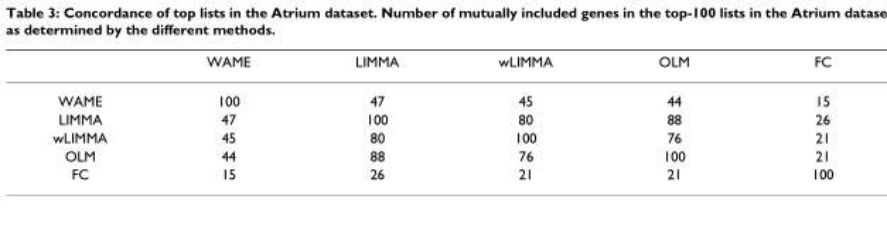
<table><thead><tr><td></td><td>WAME</td><td>LIMMA</td><td>wLIMMA</td><td>OLM</td><td>FC</td></tr></thead><tbody><tr><td>WAME</td><td>100</td><td>47</td><td>45</td><td>44</td><td>15</td></tr><tr><td>LIMMA</td><td>47</td><td>100</td><td>80</td><td>88</td><td>26</td></tr><tr><td>wLIMMA</td><td>45</td><td>80</td><td>100</td><td>76</td><td>21</td></tr><tr><td>OLM</td><td>44</td><td>88</td><td>76</td><td>100</td><td>21</td></tr><tr><td>FC</td><td>15</td><td>26</td><td>21</td><td>21</td><td>100</td></tr></tbody></table>